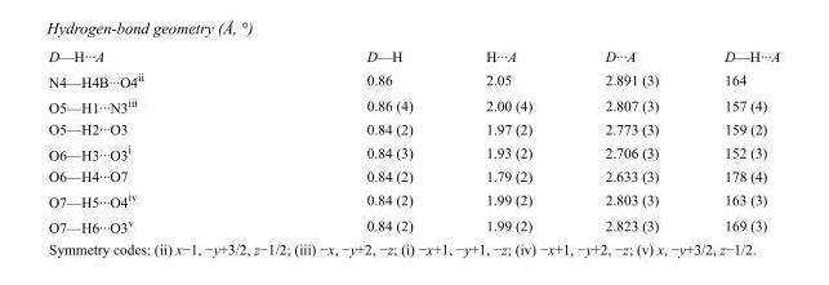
<table><tbody><tr><td>D—H···A</td><td>D—H</td><td>H···A</td><td>D···A</td><td>D—H···A</td></tr><tr><td>N4—H4B···O4<sup>ii</sup></td><td>0.86</td><td>2.05</td><td>2.891 (3)</td><td>164</td></tr><tr><td>O5—H1···N3<sup>iii</sup></td><td>0.86 (4)</td><td>2.00 (4)</td><td>2.807 (3)</td><td>157 (4)</td></tr><tr><td>O5—H2···O3</td><td>0.84 (2)</td><td>1.97 (2)</td><td>2.773 (3)</td><td>159 (2)</td></tr><tr><td>O6—H3···O3<sup>i</sup></td><td>0.84 (3)</td><td>1.93 (2)</td><td>2.706 (3)</td><td>152 (3)</td></tr><tr><td>O6—H4···O7</td><td>0.84 (2)</td><td>1.79 (2)</td><td>2.633 (3)</td><td>178 (4)</td></tr><tr><td>O7—H5···O4<sup>iv</sup></td><td>0.84 (2)</td><td>1.99 (2)</td><td>2.803 (3)</td><td>163 (3)</td></tr><tr><td>O7—H6···O3<sup>v</sup></td><td>0.84 (2)</td><td>1.99 (2)</td><td>2.823 (3)</td><td>169 (3)</td></tr></tbody></table>